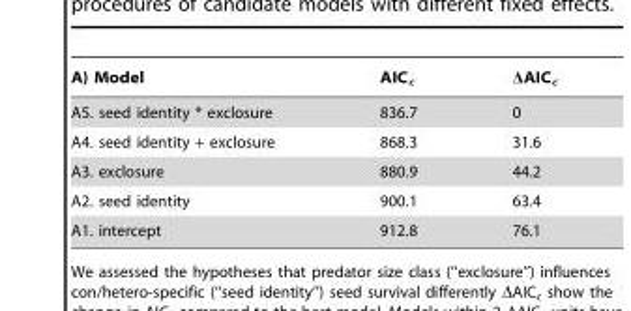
<table><thead><tr><td>A) Model</td><td>AIC<sub>c</sub></td><td>ΔAIC<sub>c</sub></td></tr></thead><tbody><tr><td>A5. seed identity * exclosure</td><td>836.7</td><td>0</td></tr><tr><td>A4. seed identity + exclosure</td><td>868.3</td><td>31.6</td></tr><tr><td>A3. exclosure</td><td>880.9</td><td>44.2</td></tr><tr><td>A2. seed identity</td><td>900.1</td><td>63.4</td></tr><tr><td>A1. intercept</td><td>912.8</td><td>76.1</td></tr></tbody></table>